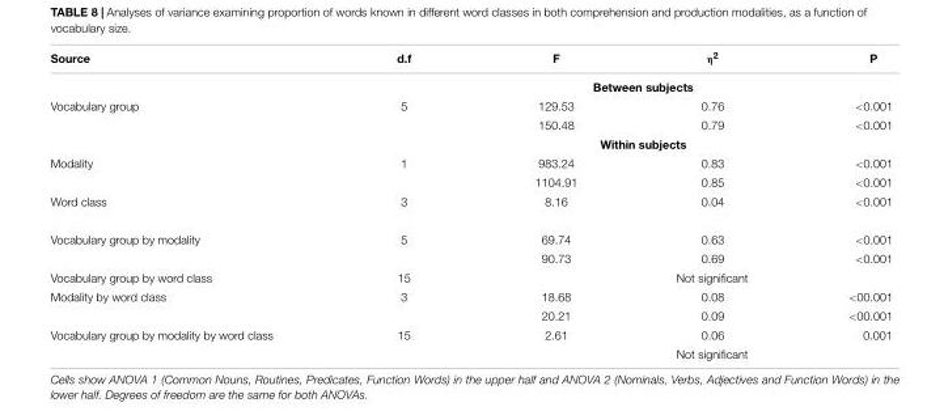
<table><thead><tr><td>Source</td><td>d.f</td><td>F</td><td>η<sup>2</sup></td><td>P</td></tr></thead><tbody><tr><td></td><td colspan="4">Between subjects</td></tr><tr><td rowspan="3">Vocabulary group</td><td>5</td><td>129.53</td><td>0.76</td><td>&lt;0.001</td></tr><tr><td></td><td>150.48</td><td>0.79</td><td>&lt;0.001</td></tr><tr><td colspan="4">Within subjects</td></tr><tr><td rowspan="2">Modality</td><td>1</td><td>983.24</td><td>0.83</td><td>&lt;0.001</td></tr><tr><td></td><td>1104.91</td><td>0.85</td><td>&lt;0.001</td></tr><tr><td>Word class</td><td>3</td><td>8.16</td><td>0.04</td><td>&lt;0.001</td></tr><tr><td rowspan="2">Vocabulary group by modality</td><td>5</td><td>69.74</td><td>0.63</td><td>&lt;0.001</td></tr><tr><td></td><td>90.73</td><td>0.69</td><td>&lt;0.001</td></tr><tr><td>Vocabulary group by word class</td><td>15</td><td colspan="3">Not significant</td></tr><tr><td rowspan="2">Modality by word class</td><td>3</td><td>18.68</td><td>0.08</td><td>&lt;00.001</td></tr><tr><td></td><td>20.21</td><td>0.09</td><td>&lt;00.001</td></tr><tr><td rowspan="2">Vocabulary group by modality by word class</td><td>15</td><td>2.61</td><td>0.06</td><td>0.001</td></tr><tr><td></td><td colspan="3">Not significant</td></tr></tbody></table>